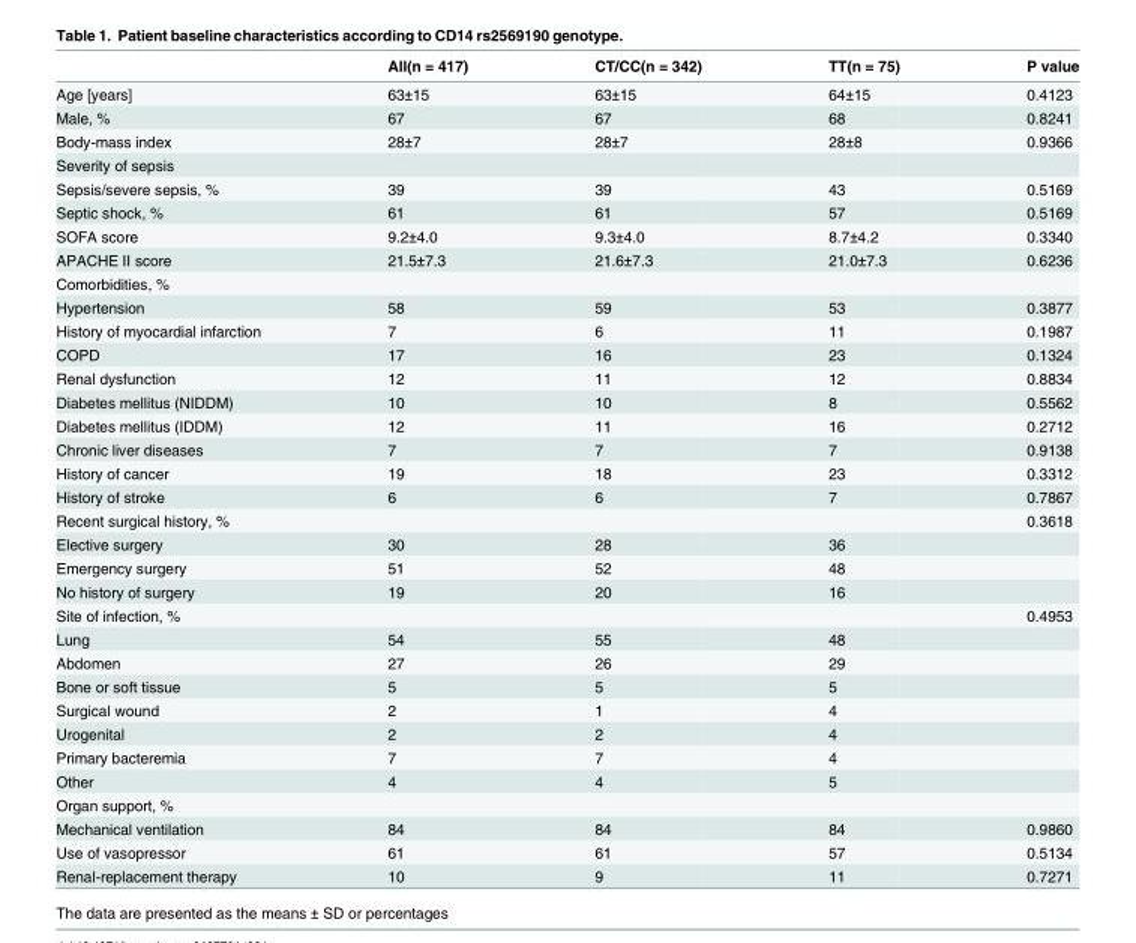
<table><thead><tr><td></td><td>All(n = 417)</td><td>CT/CC(n = 342)</td><td>TT(n = 75)</td><td>P value</td></tr></thead><tbody><tr><td>Age [years]</td><td>63±15</td><td>63±15</td><td>64±15</td><td>0.4123</td></tr><tr><td>Male, %</td><td>67</td><td>67</td><td>68</td><td>0.8241</td></tr><tr><td>Body-mass index</td><td>28±7</td><td>28±7</td><td>28±8</td><td>0.9366</td></tr><tr><td colspan="5">Severity of sepsis</td></tr><tr><td>Sepsis/severe sepsis, %</td><td>39</td><td>39</td><td>43</td><td>0.5169</td></tr><tr><td>Septic shock, %</td><td>61</td><td>61</td><td>57</td><td>0.5169</td></tr><tr><td>SOFA score</td><td>9.2±4.0</td><td>9.3±4.0</td><td>8.7±4.2</td><td>0.3340</td></tr><tr><td>APACHE II score</td><td>21.5±7.3</td><td>21.6±7.3</td><td>21.0±7.3</td><td>0.6236</td></tr><tr><td colspan="5">Comorbidities, %</td></tr><tr><td>Hypertension</td><td>58</td><td>59</td><td>53</td><td>0.3877</td></tr><tr><td>History of myocardial infarction</td><td>7</td><td>6</td><td>11</td><td>0.1987</td></tr><tr><td>COPD</td><td>17</td><td>16</td><td>23</td><td>0.1324</td></tr><tr><td>Renal dysfunction</td><td>12</td><td>11</td><td>12</td><td>0.8834</td></tr><tr><td>Diabetes mellitus (NIDDM)</td><td>10</td><td>10</td><td>8</td><td>0.5562</td></tr><tr><td>Diabetes mellitus (IDDM)</td><td>12</td><td>11</td><td>16</td><td>0.2712</td></tr><tr><td>Chronic liver diseases</td><td>7</td><td>7</td><td>7</td><td>0.9138</td></tr><tr><td>History of cancer</td><td>19</td><td>18</td><td>23</td><td>0.3312</td></tr><tr><td>History of stroke</td><td>6</td><td>6</td><td>7</td><td>0.7867</td></tr><tr><td>Recent surgical history, %</td><td></td><td></td><td></td><td>0.3618</td></tr><tr><td>Elective surgery</td><td>30</td><td>28</td><td>36</td><td></td></tr><tr><td>Emergency surgery</td><td>51</td><td>52</td><td>48</td><td></td></tr><tr><td>No history of surgery</td><td>19</td><td>20</td><td>16</td><td></td></tr><tr><td>Site of infection, %</td><td></td><td></td><td></td><td>0.4953</td></tr><tr><td>Lung</td><td>54</td><td>55</td><td>48</td><td></td></tr><tr><td>Abdomen</td><td>27</td><td>26</td><td>29</td><td></td></tr><tr><td>Bone or soft tissue</td><td>5</td><td>5</td><td>5</td><td></td></tr><tr><td>Surgical wound</td><td>2</td><td>1</td><td>4</td><td></td></tr><tr><td>Urogenital</td><td>2</td><td>2</td><td>4</td><td></td></tr><tr><td>Primary bacteremia</td><td>7</td><td>7</td><td>4</td><td></td></tr><tr><td>Other</td><td>4</td><td>4</td><td>5</td><td></td></tr><tr><td colspan="5">Organ support, %</td></tr><tr><td>Mechanical ventilation</td><td>84</td><td>84</td><td>84</td><td>0.9860</td></tr><tr><td>Use of vasopressor</td><td>61</td><td>61</td><td>57</td><td>0.5134</td></tr><tr><td>Renal-replacement therapy</td><td>10</td><td>9</td><td>11</td><td>0.7271</td></tr></tbody></table>